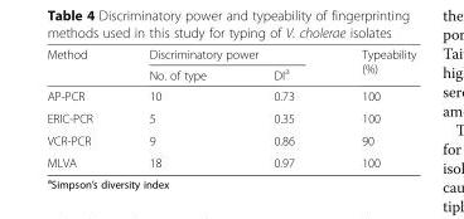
<table><thead><tr><td rowspan="2">Method</td><td colspan="2">Discriminatory power</td><td rowspan="2">Typeability (%)</td></tr><tr><td>No. of type</td><td>DI<sup>a</sup></td></tr></thead><tbody><tr><td>AP-PCR</td><td>10</td><td>0.73</td><td>100</td></tr><tr><td>ERIC-PCR</td><td>5</td><td>0.35</td><td>100</td></tr><tr><td>VCR-PCR</td><td>9</td><td>0.86</td><td>90</td></tr><tr><td>MLVA</td><td>18</td><td>0.97</td><td>100</td></tr></tbody></table>